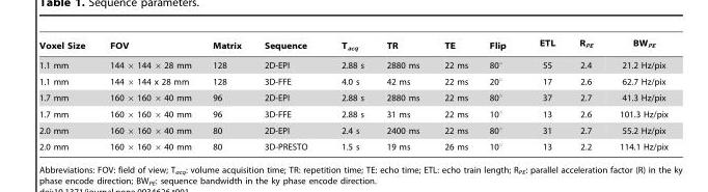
<table><thead><tr><td>Voxel Size</td><td>FOV</td><td>Matrix</td><td>Sequence</td><td>T<sub>acq</sub></td><td>TR</td><td>TE</td><td>Flip</td><td>ETL</td><td>R<sub>PE</sub></td><td>BW<sub>PE</sub></td></tr></thead><tbody><tr><td>1.1 mm</td><td>144 × 144 × 28 mm</td><td>128</td><td>2D-EPI</td><td>2.88 s</td><td>2880 ms</td><td>22 ms</td><td>80°</td><td>55</td><td>2.4</td><td>21.2 Hz/pix</td></tr><tr><td>1.1 mm</td><td>144 × 144 x 28 mm</td><td>128</td><td>3D-FFE</td><td>4.0 s</td><td>42 ms</td><td>22 ms</td><td>20°</td><td>17</td><td>2.6</td><td>62.7 Hz/pix</td></tr><tr><td>1.7 mm</td><td>160 × 160 × 40 mm</td><td>96</td><td>2D-EPI</td><td>2.88 s</td><td>2880 ms</td><td>22 ms</td><td>80°</td><td>37</td><td>2.7</td><td>41.3 Hz/pix</td></tr><tr><td>1.7 mm</td><td>160 × 160 × 40 mm</td><td>96</td><td>3D-FFE</td><td>2.88 s</td><td>31 ms</td><td>22 ms</td><td>10°</td><td>13</td><td>2.6</td><td>101.3 Hz/pix</td></tr><tr><td>2.0 mm</td><td>160 × 160 × 40 mm</td><td>80</td><td>2D-EPI</td><td>2.4 s</td><td>2400 ms</td><td>22 ms</td><td>80°</td><td>31</td><td>2.7</td><td>55.2 Hz/pix</td></tr><tr><td>2.0 mm</td><td>160 × 160 × 40 mm</td><td>80</td><td>3D-PRESTO</td><td>1.5 s</td><td>19 ms</td><td>26 ms</td><td>10°</td><td>13</td><td>2.2</td><td>114.1 Hz/pix</td></tr></tbody></table>